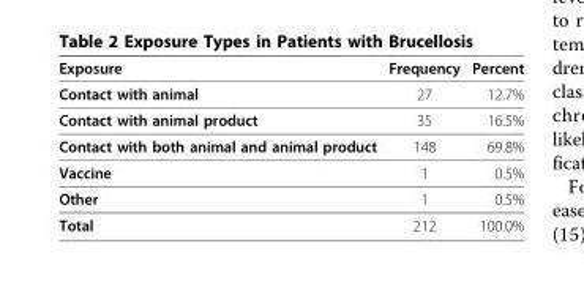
<table><thead><tr><td>Exposure</td><td>Frequency</td><td>Percent</td></tr></thead><tbody><tr><td>Contact with animal</td><td>27</td><td>12.7%</td></tr><tr><td>Contact with animal product</td><td>35</td><td>16.5%</td></tr><tr><td>Contact with both animal and animal product</td><td>148</td><td>69.8%</td></tr><tr><td>Vaccine</td><td>1</td><td>0.5%</td></tr><tr><td>Other</td><td>1</td><td>0.5%</td></tr><tr><td>Total</td><td>212</td><td>100.0%</td></tr></tbody></table>